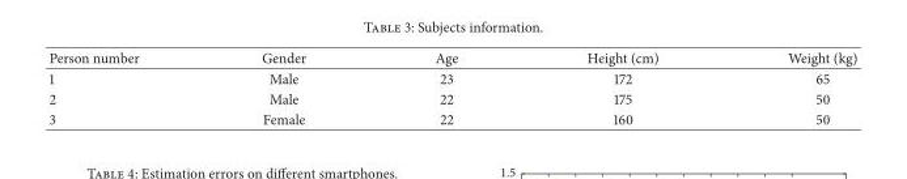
<table><thead><tr><td>Person number</td><td>Gender</td><td>Age</td><td>Height (cm)</td><td>Weight (kg)</td></tr></thead><tbody><tr><td>1</td><td>Male</td><td>23</td><td>172</td><td>65</td></tr><tr><td>2</td><td>Male</td><td>22</td><td>175</td><td>50</td></tr><tr><td>3</td><td>Female</td><td>22</td><td>160</td><td>50</td></tr></tbody></table>